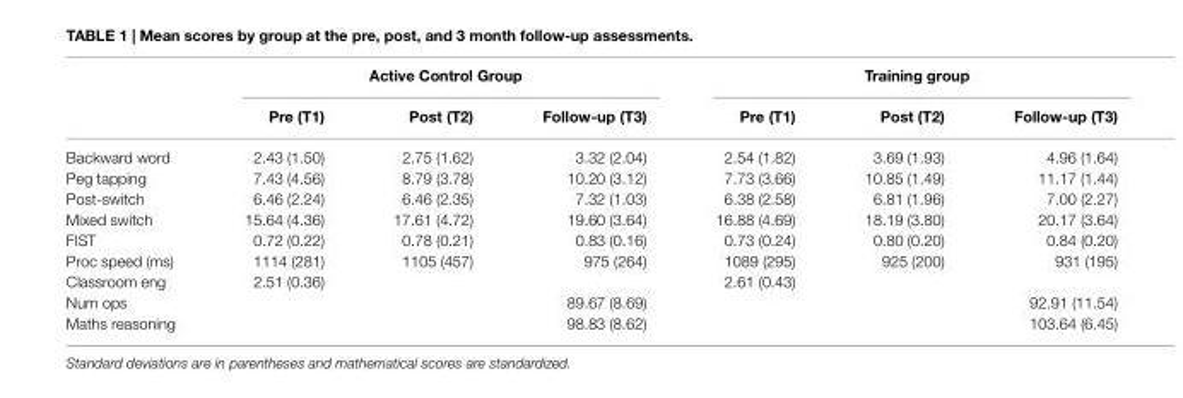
<table><thead><tr><td rowspan="2"></td><td colspan="3">Active Control Group</td><td colspan="3">Training group</td></tr><tr><td>Pre (T1)</td><td>Post (T2)</td><td>Follow-up (T3)</td><td>Pre (T1)</td><td>Post (T2)</td><td>Follow-up (T3)</td></tr></thead><tbody><tr><td>Backward word</td><td>2.43 (1.50)</td><td>2.75 (1.62)</td><td>3.32 (2.04)</td><td>2.54 (1.82)</td><td>3.69 (1.93)</td><td>4.96 (1.64)</td></tr><tr><td>Peg tapping</td><td>7.43 (4.56)</td><td>8.79 (3.78)</td><td>10.20 (3.12)</td><td>7.73 (3.66)</td><td>10.85 (1.49)</td><td>11.17 (1.44)</td></tr><tr><td>Post-switch</td><td>6.46 (2.24)</td><td>6.46 (2.35)</td><td>7.32 (1.03)</td><td>6.38 (2.58)</td><td>6.81 (1.96)</td><td>7.00 (2.27)</td></tr><tr><td>Mixed switch</td><td>15.64 (4.36)</td><td>17.61 (4.72)</td><td>19.60 (3.64)</td><td>16.88 (4.69)</td><td>18.19 (3.80)</td><td>20.17 (3.64)</td></tr><tr><td>FIST</td><td>0.72 (0.22)</td><td>0.78 (0.21)</td><td>0.83 (0.16)</td><td>0.73 (0.24)</td><td>0.80 (0.20)</td><td>0.84 (0.20)</td></tr><tr><td>Proc speed (ms)</td><td>1114 (281)</td><td>1105 (457)</td><td>975 (264)</td><td>1089 (295)</td><td>925 (200)</td><td>931 (195)</td></tr><tr><td>Classroom eng</td><td>2.51 (0.36)</td><td></td><td></td><td>2.61 (0.43)</td><td></td><td></td></tr><tr><td>Num ops</td><td></td><td></td><td>89.67 (8.69)</td><td></td><td></td><td>92.91 (11.54)</td></tr><tr><td>Maths reasoning</td><td></td><td></td><td>98.83 (8.62)</td><td></td><td></td><td>103.64 (6.45)</td></tr></tbody></table>